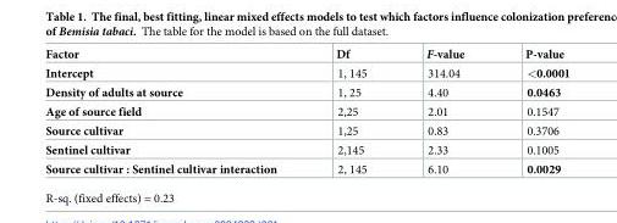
<table><thead><tr><td>Factor</td><td>Df</td><td>F-value</td><td>P-value</td></tr></thead><tbody><tr><td>Intercept</td><td>1, 145</td><td>314.04</td><td>&lt;0.0001</td></tr><tr><td>Density of adults at source</td><td>1, 25</td><td>4.40</td><td>0.0463</td></tr><tr><td>Age of source field</td><td>2,25</td><td>2.01</td><td>0.1547</td></tr><tr><td>Source cultivar</td><td>1,25</td><td>0.83</td><td>0.3706</td></tr><tr><td>Sentinel cultivar</td><td>2,145</td><td>2.33</td><td>0.1005</td></tr><tr><td>Source cultivar : Sentinel cultivar interaction</td><td>2, 145</td><td>6.10</td><td>0.0029</td></tr></tbody></table>